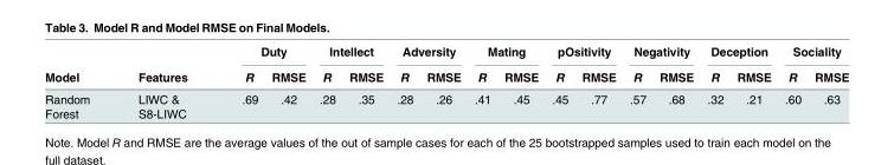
<table><thead><tr><td rowspan="2">Model</td><td rowspan="2">Features</td><td colspan="2">Duty</td><td colspan="2">Intellect</td><td colspan="2">Adversity</td><td colspan="2">Mating</td><td colspan="2">pOsitivity</td><td colspan="2">Negativity</td><td colspan="2">Deception</td><td colspan="2">Sociality</td></tr><tr><td>R</td><td>RMSE</td><td>R</td><td>RMSE</td><td>R</td><td>RMSE</td><td>R</td><td>RMSE</td><td>R</td><td>RMSE</td><td>R</td><td>RMSE</td><td>R</td><td>RMSE</td><td>R</td><td>RMSE</td></tr></thead><tbody><tr><td>Random Forest</td><td>LIWC &amp; S8-LIWC</td><td>.69</td><td>.42</td><td>.28</td><td>.35</td><td>.28</td><td>.26</td><td>.41</td><td>.45</td><td>.45</td><td>.77</td><td>.57</td><td>.68</td><td>.32</td><td>.21</td><td>.60</td><td>.63</td></tr></tbody></table>